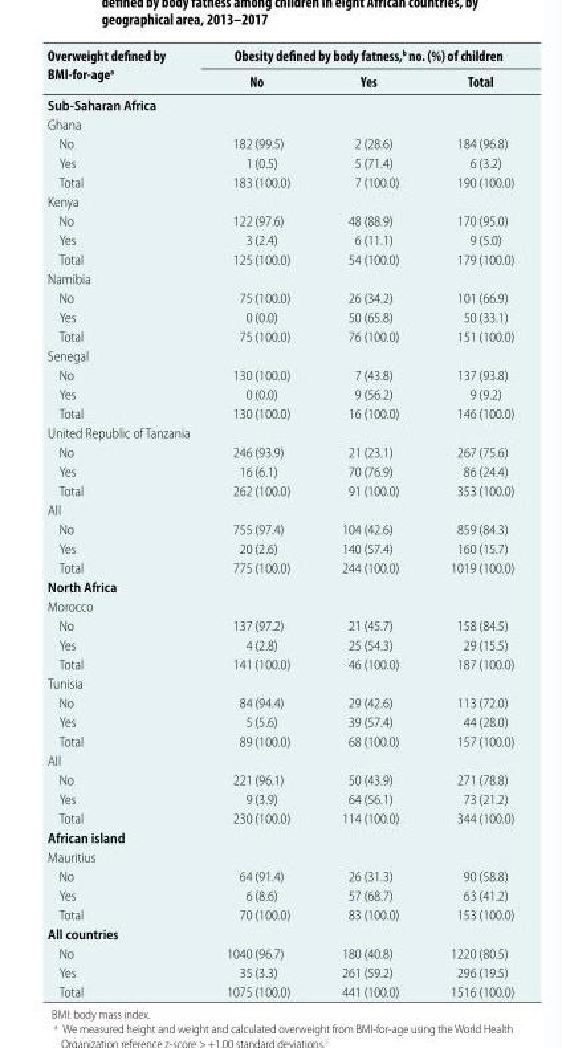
<table><thead><tr><td rowspan="2">Overweight defined by BMI-for-age<sup>a</sup></td><td colspan="3">Obesity defined by body fatness,<sup>b</sup> no. (%) of children</td></tr><tr><td>No</td><td>Yes</td><td>Total</td></tr></thead><tbody><tr><td colspan="4">Sub-Saharan Africa</td></tr><tr><td colspan="4">Ghana</td></tr><tr><td>No</td><td>182 (99.5)</td><td>2 (28.6)</td><td>184 (96.8)</td></tr><tr><td>Yes</td><td>1 (0.5)</td><td>5 (71.4)</td><td>6 (3.2)</td></tr><tr><td>Total</td><td>183 (100.0)</td><td>7 (100.0)</td><td>190 (100.0)</td></tr><tr><td colspan="4">Kenya</td></tr><tr><td>No</td><td>122 (97.6)</td><td>48 (88.9)</td><td>170 (95.0)</td></tr><tr><td>Yes</td><td>3 (2.4)</td><td>6 (11.1)</td><td>9 (5.0)</td></tr><tr><td>Total</td><td>125 (100.0)</td><td>54 (100.0)</td><td>179 (100.0)</td></tr><tr><td colspan="4">Namibia</td></tr><tr><td>No</td><td>75 (100.0)</td><td>26 (34.2)</td><td>101 (66.9)</td></tr><tr><td>Yes</td><td>0 (0.0)</td><td>50 (65.8)</td><td>50 (33.1)</td></tr><tr><td>Total</td><td>75 (100.0)</td><td>76 (100.0)</td><td>151 (100.0)</td></tr><tr><td colspan="4">Senegal</td></tr><tr><td>No</td><td>130 (100.0)</td><td>7 (43.8)</td><td>137 (93.8)</td></tr><tr><td>Yes</td><td>0 (0.0)</td><td>9 (56.2)</td><td>9 (9.2)</td></tr><tr><td>Total</td><td>130 (100.0)</td><td>16 (100.0)</td><td>146 (100.0)</td></tr><tr><td colspan="4">United Republic of Tanzania</td></tr><tr><td>No</td><td>246 (93.9)</td><td>21 (23.1)</td><td>267 (75.6)</td></tr><tr><td>Yes</td><td>16 (6.1)</td><td>70 (76.9)</td><td>86 (24.4)</td></tr><tr><td>Total</td><td>262 (100.0)</td><td>91 (100.0)</td><td>353 (100.0)</td></tr><tr><td colspan="4">All</td></tr><tr><td>No</td><td>755 (97.4)</td><td>104 (42.6)</td><td>859 (84.3)</td></tr><tr><td>Yes</td><td>20 (2.6)</td><td>140 (57.4)</td><td>160 (15.7)</td></tr><tr><td>Total</td><td>775 (100.0)</td><td>244 (100.0)</td><td>1019 (100.0)</td></tr><tr><td colspan="4">North Africa</td></tr><tr><td colspan="4">Morocco</td></tr><tr><td>No</td><td>137 (97.2)</td><td>21 (45.7)</td><td>158 (84.5)</td></tr><tr><td>Yes</td><td>4 (2.8)</td><td>25 (54.3)</td><td>29 (15.5)</td></tr><tr><td>Total</td><td>141 (100.0)</td><td>46 (100.0)</td><td>187 (100.0)</td></tr><tr><td colspan="4">Tunisia</td></tr><tr><td>No</td><td>84 (94.4)</td><td>29 (42.6)</td><td>113 (72.0)</td></tr><tr><td>Yes</td><td>5 (5.6)</td><td>39 (57.4)</td><td>44 (28.0)</td></tr><tr><td>Total</td><td>89 (100.0)</td><td>68 (100.0)</td><td>157 (100.0)</td></tr><tr><td colspan="4">All</td></tr><tr><td>No</td><td>221 (96.1)</td><td>50 (43.9)</td><td>271 (78.8)</td></tr><tr><td>Yes</td><td>9 (3.9)</td><td>64 (56.1)</td><td>73 (21.2)</td></tr><tr><td>Total</td><td>230 (100.0)</td><td>114 (100.0)</td><td>344 (100.0)</td></tr><tr><td colspan="4">African island</td></tr><tr><td colspan="4">Mauritius</td></tr><tr><td>No</td><td>64 (91.4)</td><td>26 (31.3)</td><td>90 (58.8)</td></tr><tr><td>Yes</td><td>6 (8.6)</td><td>57 (68.7)</td><td>63 (41.2)</td></tr><tr><td>Total</td><td>70 (100.0)</td><td>83 (100.0)</td><td>153 (100.0)</td></tr><tr><td colspan="4">All countries</td></tr><tr><td>No</td><td>1040 (96.7)</td><td>180 (40.8)</td><td>1220 (80.5)</td></tr><tr><td>Yes</td><td>35 (3.3)</td><td>261 (59.2)</td><td>296 (19.5)</td></tr><tr><td>Total</td><td>1075 (100.0)</td><td>441 (100.0)</td><td>1516 (100.0)</td></tr></tbody></table>